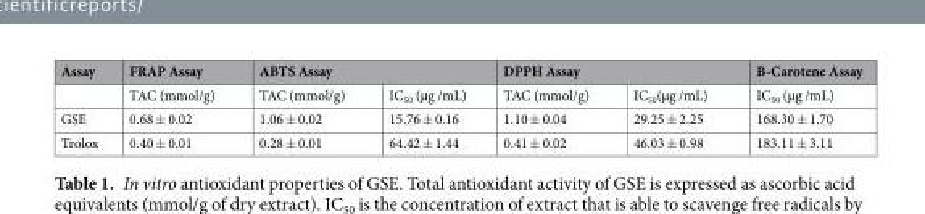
<table><thead><tr><td rowspan="2">Assay</td><td rowspan="2">FRAP Assay TAC (mmol/g)</td><td colspan="2">ABTS Assay</td><td colspan="2">DPPH Assay</td><td rowspan="2">B-Carotene Assay IC<sub>50</sub> (µg /mL)</td></tr><tr><td>TAC (mmol/g)</td><td>IC<sub>50</sub> (µg /mL)</td><td>TAC (mmol/g)</td><td>IC<sub>50</sub>(µg /mL)</td></tr></thead><tbody><tr><td>GSE</td><td>0.68 ± 0.02</td><td>1.06 ± 0.02</td><td>15.76 ± 0.16</td><td>1.10 ± 0.04</td><td>29.25 ± 2.25</td><td>168.30 ± 1.70</td></tr><tr><td>Trolox</td><td>0.40 ± 0.01</td><td>0.28 ± 0.01</td><td>64.42 ± 1.44</td><td>0.41 ± 0.02</td><td>46.03 ± 0.98</td><td>183.11 ± 3.11</td></tr></tbody></table>